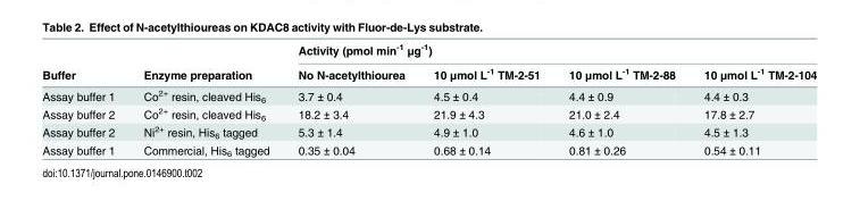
<table><thead><tr><td rowspan="2">Buffer</td><td rowspan="2">Enzyme preparation</td><td colspan="4">Activity (pmol min<sup>-1</sup> μg<sup>-1</sup>)</td></tr><tr><td>No N-acetylthiourea</td><td>10 μmol L<sup>-1</sup> TM-2-51</td><td>10 μmol L<sup>-1</sup> TM-2-88</td><td>10 μmol L<sup>-1</sup> TM-2-104</td></tr></thead><tbody><tr><td>Assay buffer 1</td><td>Co<sup>2+</sup> resin, cleaved His<sub>6</sub></td><td>3.7 ± 0.4</td><td>4.5 ± 0.4</td><td>4.4 ± 0.9</td><td>4.4 ± 0.3</td></tr><tr><td>Assay buffer 2</td><td>Co<sup>2+</sup> resin, cleaved His<sub>6</sub></td><td>18.2 ± 3.4</td><td>21.9 ± 4.3</td><td>21.0 ± 2.4</td><td>17.8 ± 2.7</td></tr><tr><td>Assay buffer 2</td><td>Ni<sup>2+</sup> resin, His<sub>6</sub> tagged</td><td>5.3 ± 1.4</td><td>4.9 ± 1.0</td><td>4.6 ± 1.0</td><td>4.5 ± 1.3</td></tr><tr><td>Assay buffer 1</td><td>Commercial, His<sub>6</sub> tagged</td><td>0.35 ± 0.04</td><td>0.68 ± 0.14</td><td>0.81 ± 0.26</td><td>0.54 ± 0.11</td></tr></tbody></table>